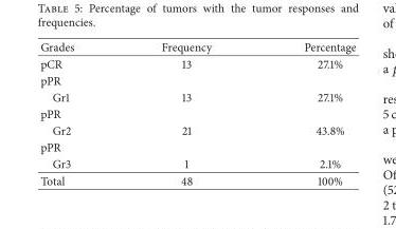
<table><thead><tr><td>Grades</td><td>Frequency</td><td>Percentage</td></tr></thead><tbody><tr><td>pCR</td><td>13</td><td>27.1%</td></tr><tr><td colspan="3">pPR</td></tr><tr><td>Gr1</td><td>13</td><td>27.1%</td></tr><tr><td colspan="3">pPR</td></tr><tr><td>Gr2</td><td>21</td><td>43.8%</td></tr><tr><td colspan="3">pPR</td></tr><tr><td>Gr3</td><td>1</td><td>2.1%</td></tr><tr><td>Total</td><td>48</td><td>100%</td></tr></tbody></table>